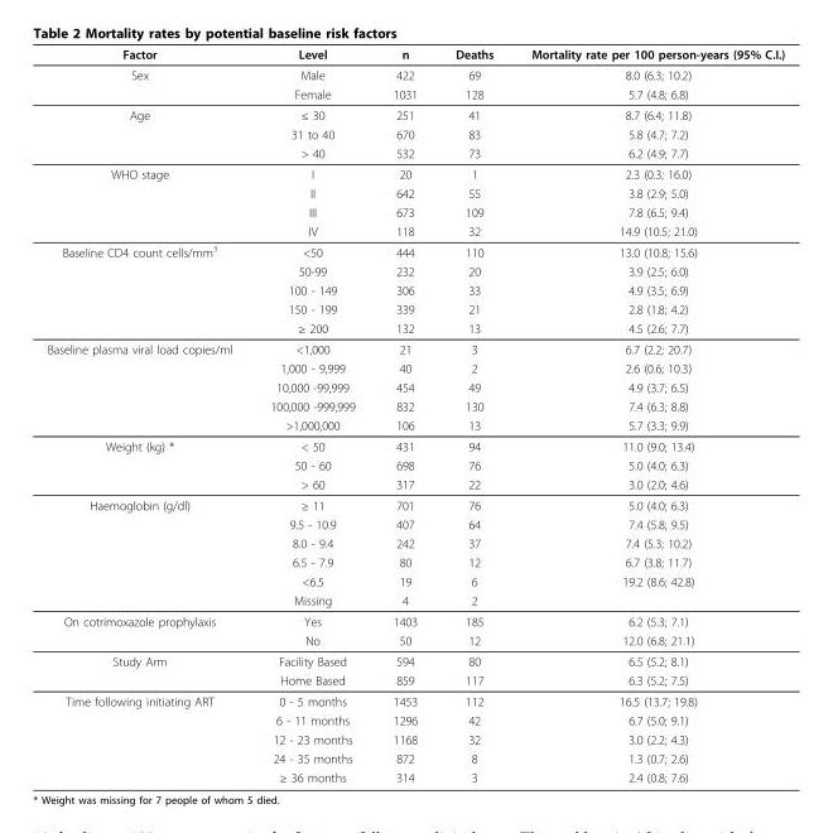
<table><thead><tr><td>Factor</td><td>Level</td><td>n</td><td>Deaths</td><td>Mortality rate per 100 person-years (95% C.I.)</td></tr></thead><tbody><tr><td rowspan="2">Sex</td><td>Male</td><td>422</td><td>69</td><td>8.0 (6.3; 10.2)</td></tr><tr><td>Female</td><td>1031</td><td>128</td><td>5.7 (4.8; 6.8)</td></tr><tr><td rowspan="3">Age</td><td>≤ 30</td><td>251</td><td>41</td><td>8.7 (6.4; 11.8)</td></tr><tr><td>31 to 40</td><td>670</td><td>83</td><td>5.8 (4.7; 7.2)</td></tr><tr><td>&gt; 40</td><td>532</td><td>73</td><td>6.2 (4.9; 7.7)</td></tr><tr><td rowspan="4">WHO stage</td><td>I</td><td>20</td><td>1</td><td>2.3 (0.3; 16.0)</td></tr><tr><td>II</td><td>642</td><td>55</td><td>3.8 (2.9; 5.0)</td></tr><tr><td>III</td><td>673</td><td>109</td><td>7.8 (6.5; 9.4)</td></tr><tr><td>IV</td><td>118</td><td>32</td><td>14.9 (10.5; 21.0)</td></tr><tr><td rowspan="5">Baseline CD4 count cells/mm<sup>3</sup></td><td>&lt;50</td><td>444</td><td>110</td><td>13.0 (10.8; 15.6)</td></tr><tr><td>50-99</td><td>232</td><td>20</td><td>3.9 (2.5; 6.0)</td></tr><tr><td>100 - 149</td><td>306</td><td>33</td><td>4.9 (3.5; 6.9)</td></tr><tr><td>150 - 199</td><td>339</td><td>21</td><td>2.8 (1.8; 4.2)</td></tr><tr><td>≥ 200</td><td>132</td><td>13</td><td>4.5 (2.6; 7.7)</td></tr><tr><td rowspan="5">Baseline plasma viral load copies/ml</td><td>&lt;1,000</td><td>21</td><td>3</td><td>6.7 (2.2; 20.7)</td></tr><tr><td>1,000 - 9,999</td><td>40</td><td>2</td><td>2.6 (0.6; 10.3)</td></tr><tr><td>10,000 -99,999</td><td>454</td><td>49</td><td>4.9 (3.7; 6.5)</td></tr><tr><td>100,000 -999,999</td><td>832</td><td>130</td><td>7.4 (6.3; 8.8)</td></tr><tr><td>&gt;1,000,000</td><td>106</td><td>13</td><td>5.7 (3.3; 9.9)</td></tr><tr><td rowspan="3">Weight (kg) *</td><td>&lt; 50</td><td>431</td><td>94</td><td>11.0 (9.0; 13.4)</td></tr><tr><td>50 - 60</td><td>698</td><td>76</td><td>5.0 (4.0; 6.3)</td></tr><tr><td>&gt; 60</td><td>317</td><td>22</td><td>3.0 (2.0; 4.6)</td></tr><tr><td rowspan="6">Haemoglobin (g/dl)</td><td>≥ 11</td><td>701</td><td>76</td><td>5.0 (4.0; 6.3)</td></tr><tr><td>9.5 - 10.9</td><td>407</td><td>64</td><td>7.4 (5.8; 9.5)</td></tr><tr><td>8.0 - 9.4</td><td>242</td><td>37</td><td>7.4 (5.3; 10.2)</td></tr><tr><td>6.5 - 7.9</td><td>80</td><td>12</td><td>6.7 (3.8; 11.7)</td></tr><tr><td>&lt;6.5</td><td>19</td><td>6</td><td>19.2 (8.6; 42.8)</td></tr><tr><td>Missing</td><td>4</td><td>2</td><td></td></tr><tr><td rowspan="2">On cotrimoxazole prophylaxis</td><td>Yes</td><td>1403</td><td>185</td><td>6.2 (5.3; 7.1)</td></tr><tr><td>No</td><td>50</td><td>12</td><td>12.0 (6.8; 21.1)</td></tr><tr><td rowspan="2">Study Arm</td><td>Facility Based</td><td>594</td><td>80</td><td>6.5 (5.2; 8.1)</td></tr><tr><td>Home Based</td><td>859</td><td>117</td><td>6.3 (5.2; 7.5)</td></tr><tr><td rowspan="5">Time following initiating ART</td><td>0 - 5 months</td><td>1453</td><td>112</td><td>16.5 (13.7; 19.8)</td></tr><tr><td>6 - 11 months</td><td>1296</td><td>42</td><td>6.7 (5.0; 9.1)</td></tr><tr><td>12 - 23 months</td><td>1168</td><td>32</td><td>3.0 (2.2; 4.3)</td></tr><tr><td>24 - 35 months</td><td>872</td><td>8</td><td>1.3 (0.7; 2.6)</td></tr><tr><td>≥ 36 months</td><td>314</td><td>3</td><td>2.4 (0.8; 7.6)</td></tr></tbody></table>